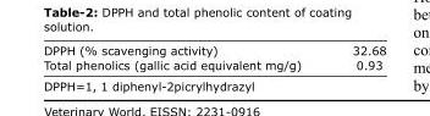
<table><tbody><tr><td>DPPH (% scavenging activity)</td><td>32.68</td></tr><tr><td>Total phenolics (gallic acid equivalent mg/g)</td><td>0.93</td></tr></tbody></table>